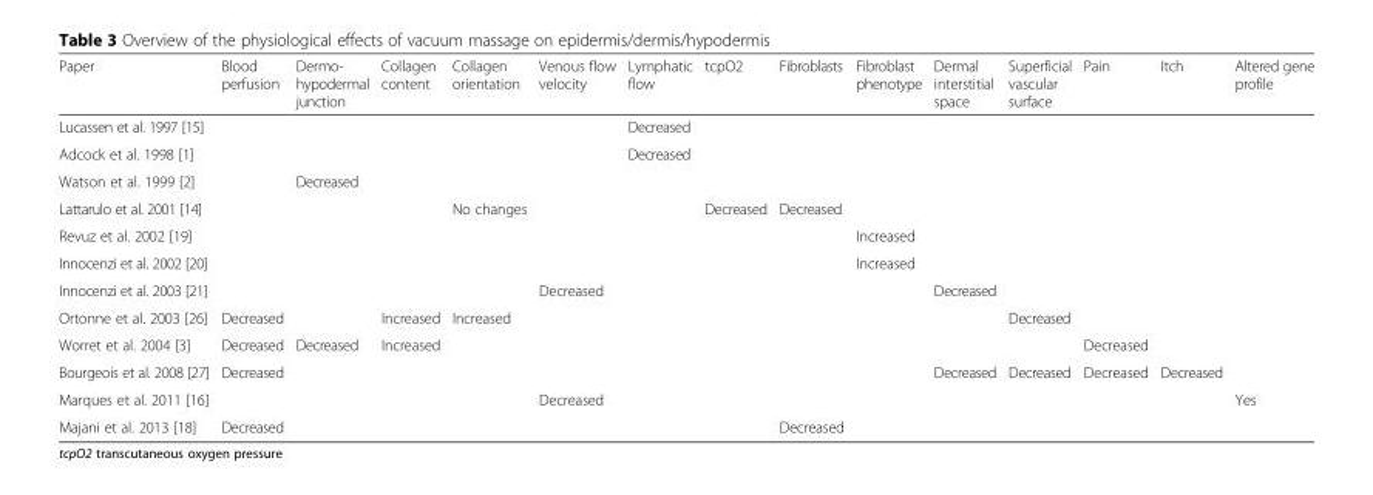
<table><thead><tr><td>Paper</td><td>Blood perfusion</td><td>Dermo- hypodermal junction</td><td>Collagen content</td><td>Collagen orientation</td><td>Venous flow velocity</td><td>Lymphatic flow</td><td>tcpO2</td><td>Fibroblasts</td><td>Fibroblast phenotype</td><td>Dermal interstitial space</td><td>Superficial vascular surface</td><td>Pain</td><td>Itch</td><td>Altered gene profile</td></tr></thead><tbody><tr><td>Lucassen et al. 1997 [15]</td><td></td><td></td><td></td><td></td><td></td><td>Decreased</td><td></td><td></td><td></td><td></td><td></td><td></td><td></td><td></td></tr><tr><td>Adcock et al. 1998 [1]</td><td></td><td></td><td></td><td></td><td></td><td>Decreased</td><td></td><td></td><td></td><td></td><td></td><td></td><td></td><td></td></tr><tr><td>Watson et al. 1999 [2]</td><td></td><td>Decreased</td><td></td><td></td><td></td><td></td><td></td><td></td><td></td><td></td><td></td><td></td><td></td><td></td></tr><tr><td>Lattarulo et al. 2001 [14]</td><td></td><td></td><td></td><td>No changes</td><td></td><td></td><td>Decreased</td><td>Decreased</td><td></td><td></td><td></td><td></td><td></td><td></td></tr><tr><td>Revuz et al. 2002 [19]</td><td></td><td></td><td></td><td></td><td></td><td></td><td></td><td></td><td>Increased</td><td></td><td></td><td></td><td></td><td></td></tr><tr><td>Innocenzi et al. 2002 [20]</td><td></td><td></td><td></td><td></td><td></td><td></td><td></td><td></td><td>Increased</td><td></td><td></td><td></td><td></td><td></td></tr><tr><td>Innocenzi et al. 2003 [21]</td><td></td><td></td><td></td><td></td><td>Decreased</td><td></td><td></td><td></td><td></td><td>Decreased</td><td></td><td></td><td></td><td></td></tr><tr><td>Ortonne et al. 2003 [26]</td><td>Decreased</td><td></td><td>Increased</td><td>Increased</td><td></td><td></td><td></td><td></td><td></td><td></td><td>Decreased</td><td></td><td></td><td></td></tr><tr><td>Worret et al. 2004 [3]</td><td>Decreased</td><td>Decreased</td><td>Increased</td><td></td><td></td><td></td><td></td><td></td><td></td><td></td><td></td><td>Decreased</td><td></td><td></td></tr><tr><td>Bourgeois et al. 2008 [27]</td><td>Decreased</td><td></td><td></td><td></td><td></td><td></td><td></td><td></td><td></td><td>Decreased</td><td>Decreased</td><td>Decreased</td><td>Decreased</td><td></td></tr><tr><td>Marques et al. 2011 [16]</td><td></td><td></td><td></td><td></td><td>Decreased</td><td></td><td></td><td></td><td></td><td></td><td></td><td></td><td></td><td>Yes</td></tr><tr><td>Majani et al. 2013 [18]</td><td>Decreased</td><td></td><td></td><td></td><td></td><td></td><td></td><td>Decreased</td><td></td><td></td><td></td><td></td><td></td><td></td></tr></tbody></table>